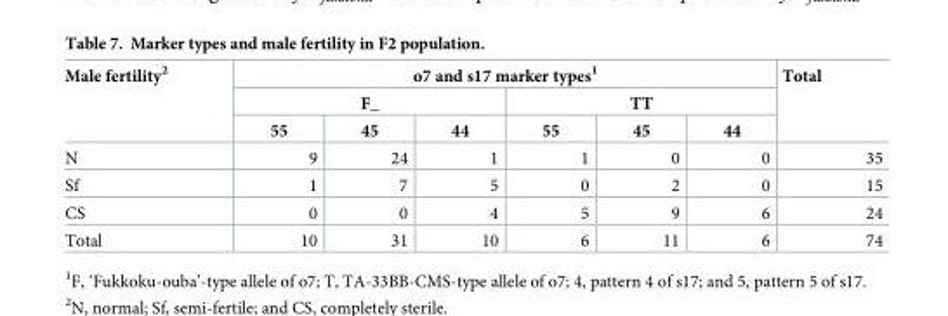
<table><thead><tr><td rowspan="3">Male fertility<sup>2</sup></td><td colspan="6">o7 and s17 marker types<sup>1</sup></td><td rowspan="3">Total</td></tr><tr><td colspan="3">F_</td><td colspan="3">TT</td></tr><tr><td>55</td><td>45</td><td>44</td><td>55</td><td>45</td><td>44</td></tr></thead><tbody><tr><td>N</td><td>9</td><td>24</td><td>1</td><td>1</td><td>0</td><td>0</td><td>35</td></tr><tr><td>Sf</td><td>1</td><td>7</td><td>5</td><td>0</td><td>2</td><td>0</td><td>15</td></tr><tr><td>CS</td><td>0</td><td>0</td><td>4</td><td>5</td><td>9</td><td>6</td><td>24</td></tr><tr><td>Total</td><td>10</td><td>31</td><td>10</td><td>6</td><td>11</td><td>6</td><td>74</td></tr></tbody></table>